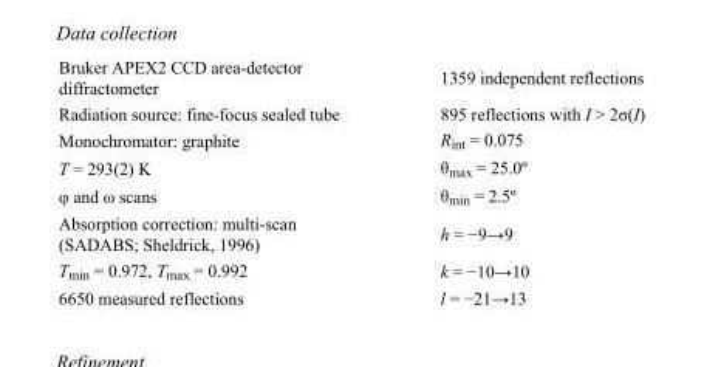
<table><tbody><tr><td>Bruker APEX2 CCD area-detector diffractometer</td><td>1359 independent reflections</td></tr><tr><td>Radiation source: fine-focus sealed tube</td><td>895 reflections with I &gt; 2σ(I)</td></tr><tr><td>Monochromator: graphite</td><td>R<sub>int</sub> = 0.075</td></tr><tr><td>T = 293(2) K</td><td>θ<sub>max</sub> = 25.0º</td></tr><tr><td>φ and ω scans</td><td>θ<sub>min</sub> = 2.5º</td></tr><tr><td>Absorption correction: multi-scan (SADABS; Sheldrick, 1996)</td><td>h = −9→9</td></tr><tr><td>T<sub>min</sub> = 0.972, T<sub>max</sub> = 0.992</td><td>k = −10→10</td></tr><tr><td>6650 measured reflections</td><td>l = −21→13</td></tr></tbody></table>